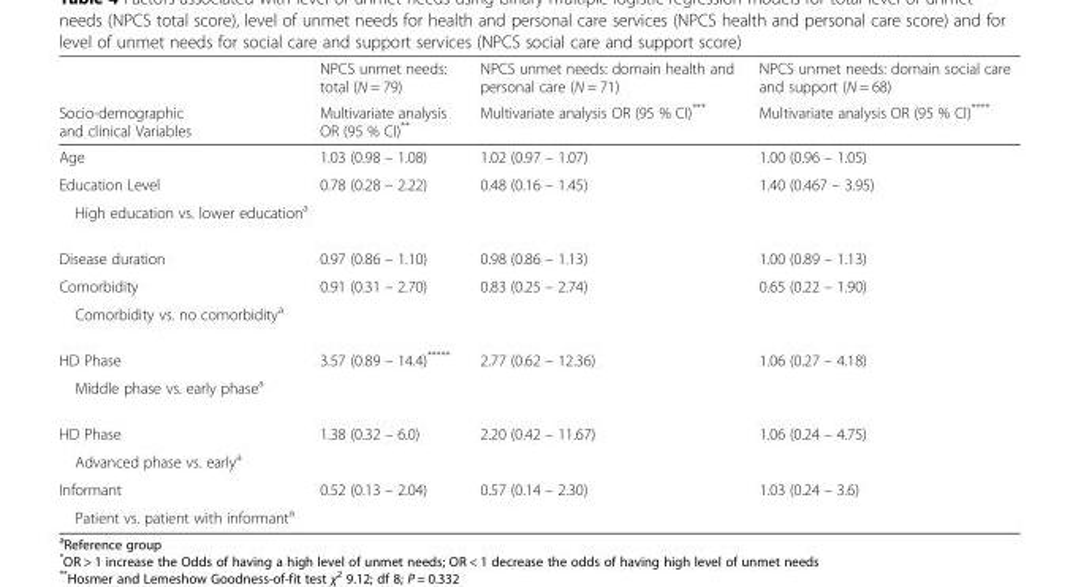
<table><thead><tr><td rowspan="2">Socio-demographic and clinical Variables</td><td rowspan="2">NPCS unmet needs: total (N = 79) Multivariate analysis OR (95 % CI)**</td><td rowspan="2">NPCS unmet needs: domain health and personal care (N = 71) Multivariate analysis OR (95 % CI)***</td><td rowspan="2">NPCS unmet needs: domain social care and support (N = 68) Multivariate analysis OR (95 % CI)****</td></tr><tr></tr></thead><tbody><tr><td>Age</td><td>1.03 (0.98 – 1.08)</td><td>1.02 (0.97 – 1.07)</td><td>1.00 (0.96 – 1.05)</td></tr><tr><td>Education Level</td><td rowspan="2">0.78 (0.28 – 2.22)</td><td rowspan="2">0.48 (0.16 – 1.45)</td><td rowspan="2">1.40 (0.467 – 3.95)</td></tr><tr><td>High education vs. lower education<sup>a</sup></td></tr><tr><td>Disease duration</td><td>0.97 (0.86 – 1.10)</td><td>0.98 (0.86 – 1.13)</td><td>1.00 (0.89 – 1.13)</td></tr><tr><td>Comorbidity</td><td rowspan="2">0.91 (0.31 – 2.70)</td><td rowspan="2">0.83 (0.25 – 2.74)</td><td rowspan="2">0.65 (0.22 – 1.90)</td></tr><tr><td>Comorbidity vs. no comorbidity<sup>a</sup></td></tr><tr><td>HD Phase</td><td rowspan="2">3.57 (0.89 – 14.4)*****</td><td rowspan="2">2.77 (0.62 – 12.36)</td><td rowspan="2">1.06 (0.27 – 4.18)</td></tr><tr><td>Middle phase vs. early phase<sup>a</sup></td></tr><tr><td>HD Phase</td><td rowspan="2">1.38 (0.32 – 6.0)</td><td rowspan="2">2.20 (0.42 – 11.67)</td><td rowspan="2">1.06 (0.24 – 4.75)</td></tr><tr><td>Advanced phase vs. early<sup>a</sup></td></tr><tr><td>Informant</td><td rowspan="2">0.52 (0.13 – 2.04)</td><td rowspan="2">0.57 (0.14 – 2.30)</td><td rowspan="2">1.03 (0.24 – 3.6)</td></tr><tr><td>Patient vs. patient with informant<sup>a</sup></td></tr></tbody></table>